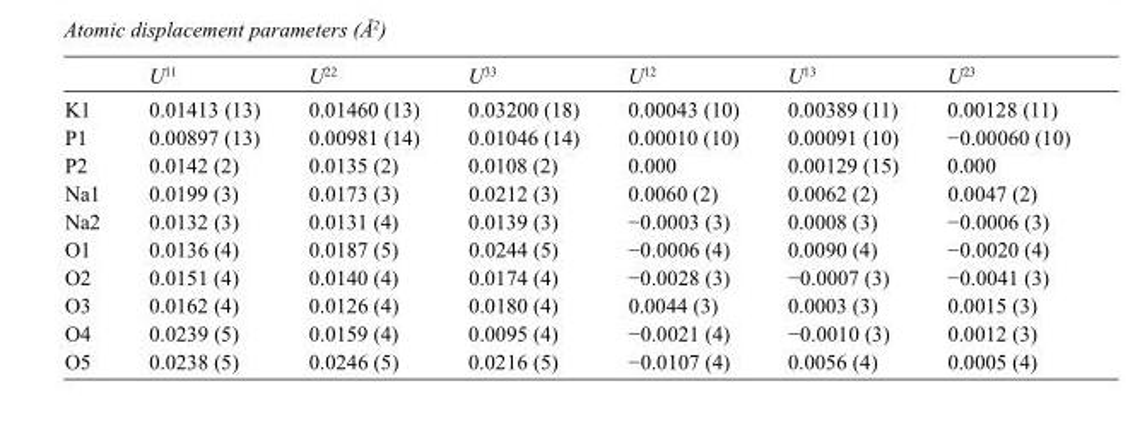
<table><thead><tr><td></td><td>U<sup>11</sup></td><td>U<sup>22</sup></td><td>U<sup>33</sup></td><td>U<sup>12</sup></td><td>U<sup>13</sup></td><td>U<sup>23</sup></td></tr></thead><tbody><tr><td>K1</td><td>0.01413 (13)</td><td>0.01460 (13)</td><td>0.03200 (18)</td><td>0.00043 (10)</td><td>0.00389 (11)</td><td>0.00128 (11)</td></tr><tr><td>P1</td><td>0.00897 (13)</td><td>0.00981 (14)</td><td>0.01046 (14)</td><td>0.00010 (10)</td><td>0.00091 (10)</td><td>−0.00060 (10)</td></tr><tr><td>P2</td><td>0.0142 (2)</td><td>0.0135 (2)</td><td>0.0108 (2)</td><td>0.000</td><td>0.00129 (15)</td><td>0.000</td></tr><tr><td>Na1</td><td>0.0199 (3)</td><td>0.0173 (3)</td><td>0.0212 (3)</td><td>0.0060 (2)</td><td>0.0062 (2)</td><td>0.0047 (2)</td></tr><tr><td>Na2</td><td>0.0132 (3)</td><td>0.0131 (4)</td><td>0.0139 (3)</td><td>−0.0003 (3)</td><td>0.0008 (3)</td><td>−0.0006 (3)</td></tr><tr><td>O1</td><td>0.0136 (4)</td><td>0.0187 (5)</td><td>0.0244 (5)</td><td>−0.0006 (4)</td><td>0.0090 (4)</td><td>−0.0020 (4)</td></tr><tr><td>O2</td><td>0.0151 (4)</td><td>0.0140 (4)</td><td>0.0174 (4)</td><td>−0.0028 (3)</td><td>−0.0007 (3)</td><td>−0.0041 (3)</td></tr><tr><td>O3</td><td>0.0162 (4)</td><td>0.0126 (4)</td><td>0.0180 (4)</td><td>0.0044 (3)</td><td>0.0003 (3)</td><td>0.0015 (3)</td></tr><tr><td>O4</td><td>0.0239 (5)</td><td>0.0159 (4)</td><td>0.0095 (4)</td><td>−0.0021 (4)</td><td>−0.0010 (3)</td><td>0.0012 (3)</td></tr><tr><td>O5</td><td>0.0238 (5)</td><td>0.0246 (5)</td><td>0.0216 (5)</td><td>−0.0107 (4)</td><td>0.0056 (4)</td><td>0.0005 (4)</td></tr></tbody></table>